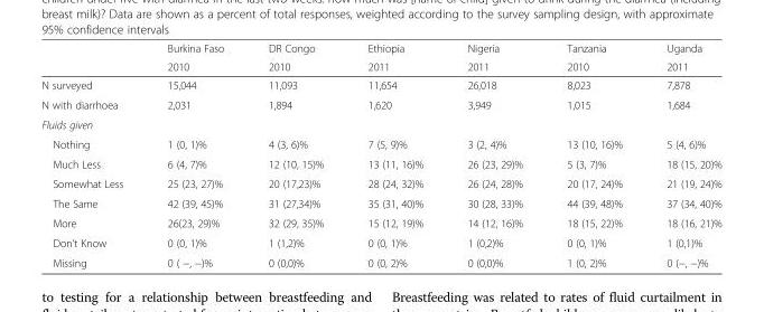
<table><thead><tr><td rowspan="2"></td><td rowspan="2">Burkina Faso 2010</td><td rowspan="2">DR Congo 2010</td><td rowspan="2">Ethiopia 2011</td><td rowspan="2">Nigeria 2011</td><td rowspan="2">Tanzania 2010</td><td rowspan="2">Uganda 2011</td></tr><tr></tr></thead><tbody><tr><td>N surveyed</td><td>15,044</td><td>11,093</td><td>11,654</td><td>26,018</td><td>8,023</td><td>7,878</td></tr><tr><td>N with diarrhoea</td><td>2,031</td><td>1,894</td><td>1,620</td><td>3,949</td><td>1,015</td><td>1,684</td></tr><tr><td colspan="7">Fluids given</td></tr><tr><td>Nothing</td><td>1 (0, 1)%</td><td>4 (3, 6)%</td><td>7 (5, 9)%</td><td>3 (2, 4)%</td><td>13 (10, 16)%</td><td>5 (4, 6)%</td></tr><tr><td>Much Less</td><td>6 (4, 7)%</td><td>12 (10, 15)%</td><td>13 (11, 16)%</td><td>26 (23, 29)%</td><td>5 (3, 7)%</td><td>18 (15, 20)%</td></tr><tr><td>Somewhat Less</td><td>25 (23, 27)%</td><td>20 (17,23)%</td><td>28 (24, 32)%</td><td>26 (24, 28)%</td><td>20 (17, 24)%</td><td>21 (19, 24)%</td></tr><tr><td>The Same</td><td>42 (39, 45)%</td><td>31 (27,34)%</td><td>35 (31, 40)%</td><td>30 (28, 33)%</td><td>44 (39, 48)%</td><td>37 (34, 40)%</td></tr><tr><td>More</td><td>26(23, 29)%</td><td>32 (29, 35)%</td><td>15 (12, 19)%</td><td>14 (12, 16)%</td><td>18 (15, 22)%</td><td>18 (16, 21)%</td></tr><tr><td>Don’t Know</td><td>0 (0, 1)%</td><td>1 (1,2)%</td><td>0 (0, 1)%</td><td>1 (0,2)%</td><td>0 (0, 1)%</td><td>1 (0,1)%</td></tr><tr><td>Missing</td><td>0 ( −, −)%</td><td>0 (0,0)%</td><td>0 (0, 2)%</td><td>0 (0,0)%</td><td>1 (0, 2)%</td><td>0 (−, −)%</td></tr></tbody></table>